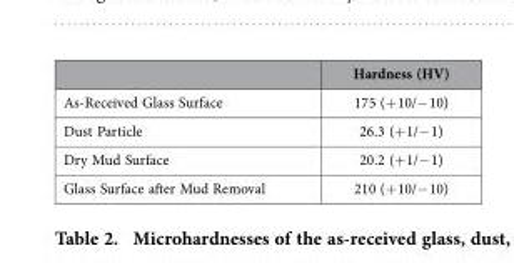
<table><thead><tr><td></td><td>Hardness (HV)</td></tr></thead><tbody><tr><td>As-Received Glass Surface</td><td>175 (+ 10/− 10)</td></tr><tr><td>Dust Particle</td><td>26.3 (+ 1/− 1)</td></tr><tr><td>Dry Mud Surface</td><td>20.2 (+ 1/− 1)</td></tr><tr><td>Glass Surface after Mud Removal</td><td>210 (+ 10/− 10)</td></tr></tbody></table>